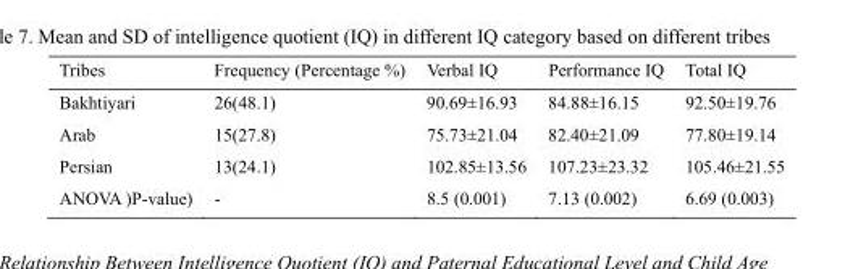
<table><thead><tr><td>Tribes</td><td>Frequency (Percentage %)</td><td>Verbal IQ</td><td>Performance IQ</td><td>Total IQ</td></tr></thead><tbody><tr><td>Bakhtiyari</td><td>26(48.1)</td><td>90.69±16.93</td><td>84.88±16.15</td><td>92.50±19.76</td></tr><tr><td>Arab</td><td>15(27.8)</td><td>75.73±21.04</td><td>82.40±21.09</td><td>77.80±19.14</td></tr><tr><td>Persian</td><td>13(24.1)</td><td>102.85±13.56</td><td>107.23±23.32</td><td>105.46±21.55</td></tr><tr><td>ANOVA )P-value)</td><td>-</td><td>8.5 (0.001)</td><td>7.13 (0.002)</td><td>6.69 (0.003)</td></tr></tbody></table>